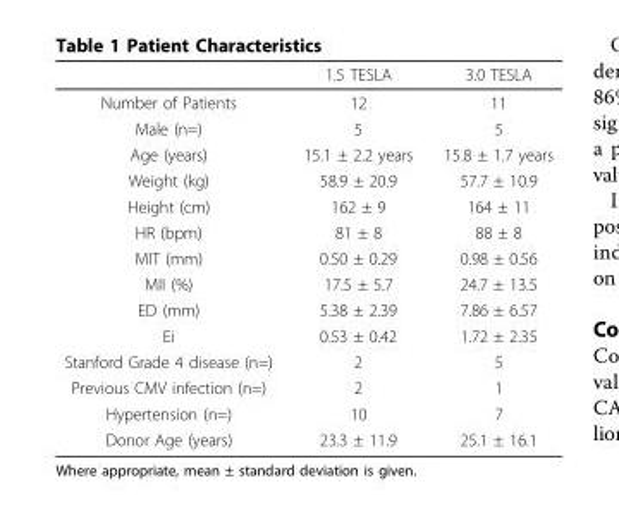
<table><thead><tr><td></td><td>1.5 TESLA</td><td>3.0 TESLA</td></tr></thead><tbody><tr><td>Number of Patients</td><td>12</td><td>11</td></tr><tr><td>Male (n=)</td><td>5</td><td>5</td></tr><tr><td>Age (years)</td><td>15.1 ± 2.2 years</td><td>15.8 ± 1.7 years</td></tr><tr><td>Weight (kg)</td><td>58.9 ± 20.9</td><td>57.7 ± 10.9</td></tr><tr><td>Height (cm)</td><td>162 ± 9</td><td>164 ± 11</td></tr><tr><td>HR (bpm)</td><td>81 ± 8</td><td>88 ± 8</td></tr><tr><td>MIT (mm)</td><td>0.50 ± 0.29</td><td>0.98 ± 0.56</td></tr><tr><td>MII (%)</td><td>17.5 ± 5.7</td><td>24.7 ± 13.5</td></tr><tr><td>ED (mm)</td><td>5.38 ± 2.39</td><td>7.86 ± 6.57</td></tr><tr><td>Ei</td><td>0.53 ± 0.42</td><td>1.72 ± 2.35</td></tr><tr><td>Stanford Grade 4 disease (n=)</td><td>2</td><td>5</td></tr><tr><td>Previous CMV infection (n=)</td><td>2</td><td>1</td></tr><tr><td>Hypertension (n=)</td><td>10</td><td>7</td></tr><tr><td>Donor Age (years)</td><td>23.3 ± 11.9</td><td>25.1 ± 16.1</td></tr></tbody></table>